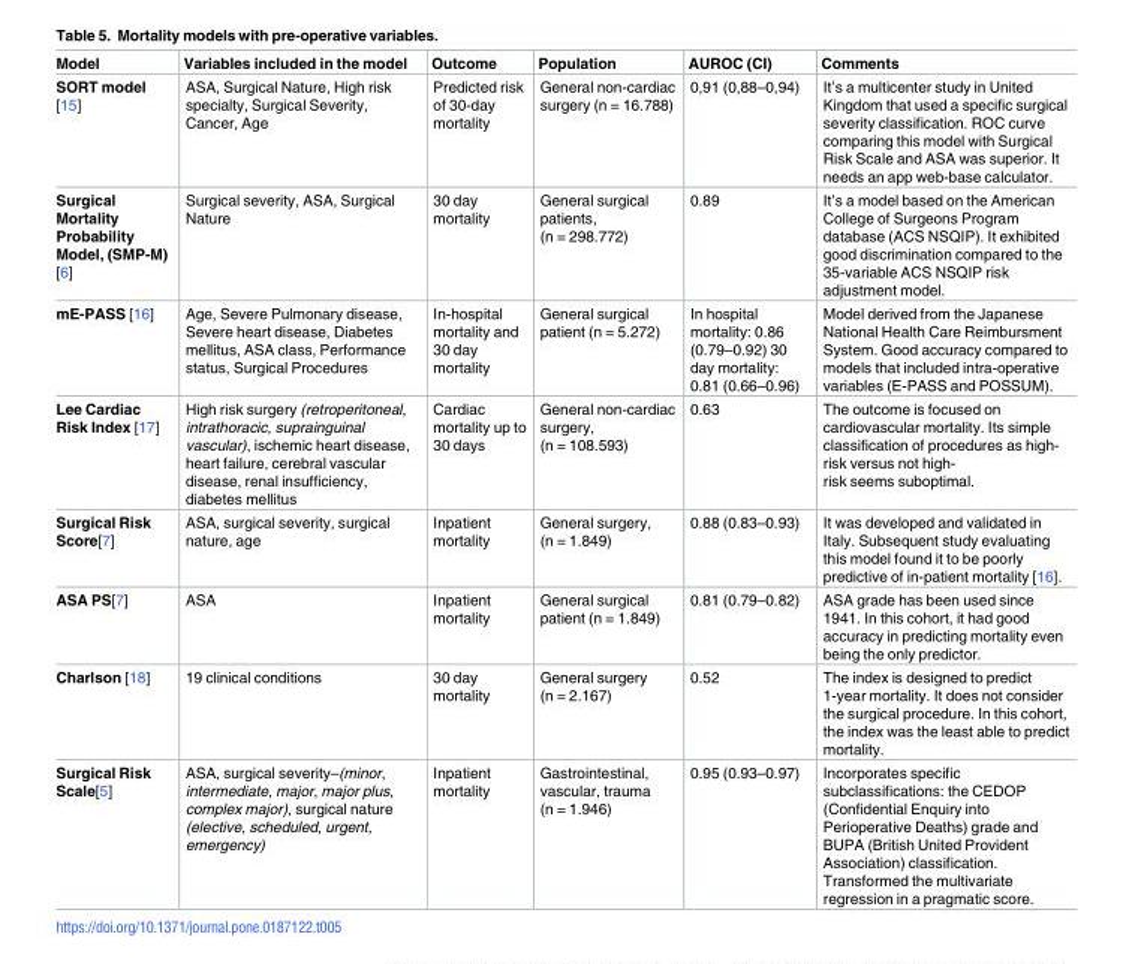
<table><thead><tr><td>Model</td><td>Variables included in the model</td><td>Outcome</td><td>Population</td><td>AUROC (CI)</td><td>Comments</td></tr></thead><tbody><tr><td>SORT model [15]</td><td>ASA, Surgical Nature, High risk specialty, Surgical Severity, Cancer, Age</td><td>Predicted risk of 30-day mortality</td><td>General non-cardiac surgery (n = 16.788)</td><td>0,91 (0,88–0,94)</td><td>It’s a multicenter study in United Kingdom that used a specific surgical severity classification. ROC curve comparing this model with Surgical Risk Scale and ASA was superior. It needs an app web-base calculator.</td></tr><tr><td>Surgical Mortality Probability Model, (SMP-M) [6]</td><td>Surgical severity, ASA, Surgical Nature</td><td>30 day mortality</td><td>General surgical patients, (n = 298.772)</td><td>0.89</td><td>It’s a model based on the American College of Surgeons Program database (ACS NSQIP). It exhibited good discrimination compared to the 35-variable ACS NSQIP risk adjustment model.</td></tr><tr><td>mE-PASS [16]</td><td>Age, Severe Pulmonary disease, Severe heart disease, Diabetes mellitus, ASA class, Performance status, Surgical Procedures</td><td>In-hospital mortality and 30 day mortality</td><td>General surgical patient (n = 5.272)</td><td>In hospital mortality: 0.86 (0.79–0.92) 30 day mortality: 0.81 (0.66–0.96)</td><td>Model derived from the Japanese National Health Care Reimbursment System. Good accuracy compared to models that included intra-operative variables (E-PASS and POSSUM).</td></tr><tr><td>Lee Cardiac Risk Index [17]</td><td>High risk surgery (retroperitoneal, intrathoracic, suprainguinal vascular), ischemic heart disease, heart failure, cerebral vascular disease, renal insufficiency, diabetes mellitus</td><td>Cardiac mortality up to 30 days</td><td>General non-cardiac surgery, (n = 108.593)</td><td>0.63</td><td>The outcome is focused on cardiovascular mortality. Its simple classification of procedures as high- risk versus not high- risk seems suboptimal.</td></tr><tr><td>Surgical Risk Score[7]</td><td>ASA, surgical severity, surgical nature, age</td><td>Inpatient mortality</td><td>General surgery, (n = 1.849)</td><td>0.88 (0.83–0.93)</td><td>It was developed and validated in Italy. Subsequent study evaluating this model found it to be poorly predictive of in-patient mortality [16].</td></tr><tr><td>ASA PS[7]</td><td>ASA</td><td>Inpatient mortality</td><td>General surgical patient (n = 1.849)</td><td>0.81 (0.79–0.82)</td><td>ASA grade has been used since 1941. In this cohort, it had good accuracy in predicting mortality even being the only predictor.</td></tr><tr><td>Charlson [18]</td><td>19 clinical conditions</td><td>30 day mortality</td><td>General surgery (n = 2.167)</td><td>0.52</td><td>The index is designed to predict 1-year mortality. It does not consider the surgical procedure. In this cohort, the index was the least able to predict mortality.</td></tr><tr><td>Surgical Risk Scale[5]</td><td>ASA, surgical severity–(minor, intermediate, major, major plus, complex major), surgical nature (elective, scheduled, urgent, emergency)</td><td>Inpatient mortality</td><td>Gastrointestinal, vascular, trauma (n = 1.946)</td><td>0.95 (0.93–0.97)</td><td>Incorporates specific subclassifications: the CEDOP (Confidential Enquiry into Perioperative Deaths) grade and BUPA (British United Provident Association) classification. Transformed the multivariate regression in a pragmatic score.</td></tr></tbody></table>